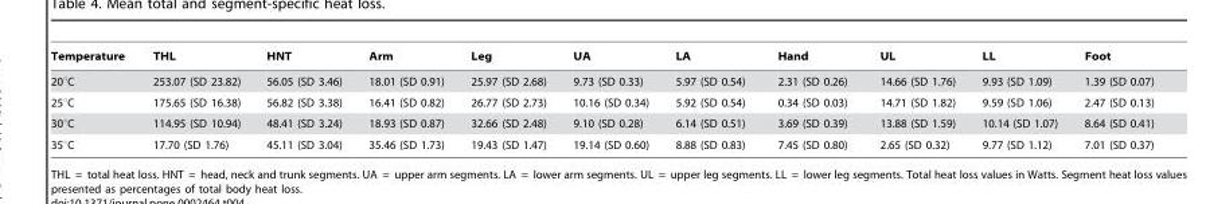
<table><thead><tr><td>Temperature</td><td>THL</td><td>HNT</td><td>Arm</td><td>Leg</td><td>UA</td><td>LA</td><td>Hand</td><td>UL</td><td>LL</td><td>Foot</td></tr></thead><tbody><tr><td>20°C</td><td>253.07 (SD 23.82)</td><td>56.05 (SD 3.46)</td><td>18.01 (SD 0.91)</td><td>25.97 (SD 2.68)</td><td>9.73 (SD 0.33)</td><td>5.97 (SD 0.54)</td><td>2.31 (SD 0.26)</td><td>14.66 (SD 1.76)</td><td>9.93 (SD 1.09)</td><td>1.39 (SD 0.07)</td></tr><tr><td>25°C</td><td>175.65 (SD 16.38)</td><td>56.82 (SD 3.38)</td><td>16.41 (SD 0.82)</td><td>26.77 (SD 2.73)</td><td>10.16 (SD 0.34)</td><td>5.92 (SD 0.54)</td><td>0.34 (SD 0.03)</td><td>14.71 (SD 1.82)</td><td>9.59 (SD 1.06)</td><td>2.47 (SD 0.13)</td></tr><tr><td>30°C</td><td>114.95 (SD 10.94)</td><td>48.41 (SD 3.24)</td><td>18.93 (SD 0.87)</td><td>32.66 (SD 2.48)</td><td>9.10 (SD 0.28)</td><td>6.14 (SD 0.51)</td><td>3.69 (SD 0.39)</td><td>13.88 (SD 1.59)</td><td>10.14 (SD 1.07)</td><td>8.64 (SD 0.41)</td></tr><tr><td>35°C</td><td>17.70 (SD 1.76)</td><td>45.11 (SD 3.04)</td><td>35.46 (SD 1.73)</td><td>19.43 (SD 1.47)</td><td>19.14 (SD 0.60)</td><td>8.88 (SD 0.83)</td><td>7.45 (SD 0.80)</td><td>2.65 (SD 0.32)</td><td>9.77 (SD 1.12)</td><td>7.01 (SD 0.37)</td></tr></tbody></table>